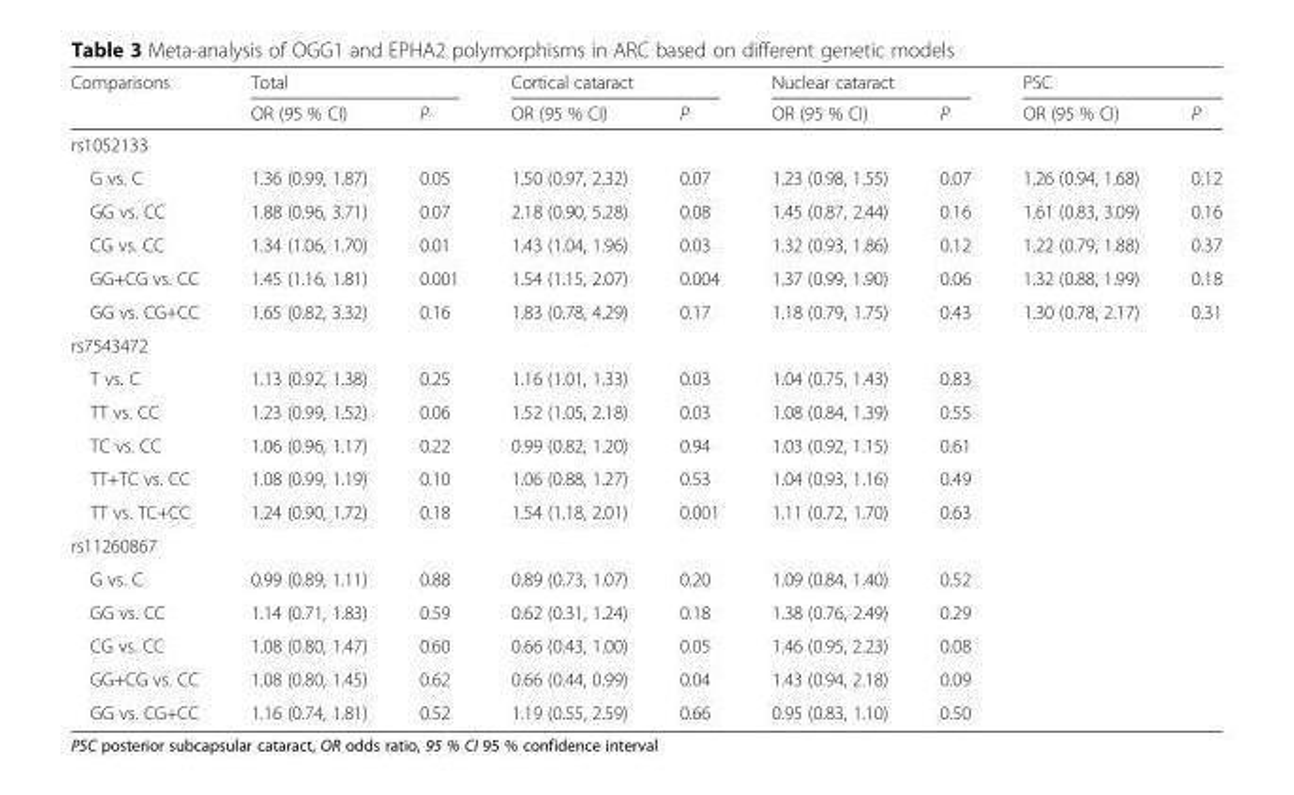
<table><thead><tr><td rowspan="2">Comparisons</td><td colspan="2">Total</td><td colspan="2">Cortical cataract</td><td colspan="2">Nuclear cataract</td><td colspan="2">PSC</td></tr><tr><td>OR (95 % CI)</td><td>P</td><td>OR (95 % CI)</td><td>P</td><td>OR (95 % CI)</td><td>P</td><td>OR (95 % CI)</td><td>P</td></tr></thead><tbody><tr><td colspan="9">rs1052133</td></tr><tr><td>G vs. C</td><td>1.36 (0.99, 1.87)</td><td>0.05</td><td>1.50 (0.97, 2.32)</td><td>0.07</td><td>1.23 (0.98, 1.55)</td><td>0.07</td><td>1.26 (0.94, 1.68)</td><td>0.12</td></tr><tr><td>GG vs. CC</td><td>1.88 (0.96, 3.71)</td><td>0.07</td><td>2.18 (0.90, 5.28)</td><td>0.08</td><td>1.45 (0.87, 2.44)</td><td>0.16</td><td>1.61 (0.83, 3.09)</td><td>0.16</td></tr><tr><td>CG vs. CC</td><td>1.34 (1.06, 1.70)</td><td>0.01</td><td>1.43 (1.04, 1.96)</td><td>0.03</td><td>1.32 (0.93, 1.86)</td><td>0.12</td><td>1.22 (0.79, 1.88)</td><td>0.37</td></tr><tr><td>GG+CG vs. CC</td><td>1.45 (1.16, 1.81)</td><td>0.001</td><td>1.54 (1.15, 2.07)</td><td>0.004</td><td>1.37 (0.99, 1.90)</td><td>0.06</td><td>1.32 (0.88, 1.99)</td><td>0.18</td></tr><tr><td>GG vs. CG+CC</td><td>1.65 (0.82, 3.32)</td><td>0.16</td><td>1.83 (0.78, 4.29)</td><td>0.17</td><td>1.18 (0.79, 1.75)</td><td>0.43</td><td>1.30 (0.78, 2.17)</td><td>0.31</td></tr><tr><td colspan="9">rs7543472</td></tr><tr><td>T vs. C</td><td>1.13 (0.92, 1.38)</td><td>0.25</td><td>1.16 (1.01, 1.33)</td><td>0.03</td><td>1.04 (0.75, 1.43)</td><td>0.83</td><td></td><td></td></tr><tr><td>TT vs. CC</td><td>1.23 (0.99, 1.52)</td><td>0.06</td><td>1.52 (1.05, 2.18)</td><td>0.03</td><td>1.08 (0.84, 1.39)</td><td>0.55</td><td></td><td></td></tr><tr><td>TC vs. CC</td><td>1.06 (0.96, 1.17)</td><td>0.22</td><td>0.99 (0.82, 1.20)</td><td>0.94</td><td>1.03 (0.92, 1.15)</td><td>0.61</td><td></td><td></td></tr><tr><td>TT+TC vs. CC</td><td>1.08 (0.99, 1.19)</td><td>0.10</td><td>1.06 (0.88, 1.27)</td><td>0.53</td><td>1.04 (0.93, 1.16)</td><td>0.49</td><td></td><td></td></tr><tr><td>TT vs. TC+CC</td><td>1.24 (0.90, 1.72)</td><td>0.18</td><td>1.54 (1.18, 2.01)</td><td>0.001</td><td>1.11 (0.72, 1.70)</td><td>0.63</td><td></td><td></td></tr><tr><td colspan="9">rs11260867</td></tr><tr><td>G vs. C</td><td>0.99 (0.89, 1.11)</td><td>0.88</td><td>0.89 (0.73, 1.07)</td><td>0.20</td><td>1.09 (0.84, 1.40)</td><td>0.52</td><td></td><td></td></tr><tr><td>GG vs. CC</td><td>1.14 (0.71, 1.83)</td><td>0.59</td><td>0.62 (0.31, 1.24)</td><td>0.18</td><td>1.38 (0.76, 2.49)</td><td>0.29</td><td></td><td></td></tr><tr><td>CG vs. CC</td><td>1.08 (0.80, 1.47)</td><td>0.60</td><td>0.66 (0.43, 1.00)</td><td>0.05</td><td>1.46 (0.95, 2.23)</td><td>0.08</td><td></td><td></td></tr><tr><td>GG+CG vs. CC</td><td>1.08 (0.80, 1.45)</td><td>0.62</td><td>0.66 (0.44, 0.99)</td><td>0.04</td><td>1.43 (0.94, 2.18)</td><td>0.09</td><td></td><td></td></tr><tr><td>GG vs. CG+CC</td><td>1.16 (0.74, 1.81)</td><td>0.52</td><td>1.19 (0.55, 2.59)</td><td>0.66</td><td>0.95 (0.83, 1.10)</td><td>0.50</td><td></td><td></td></tr></tbody></table>